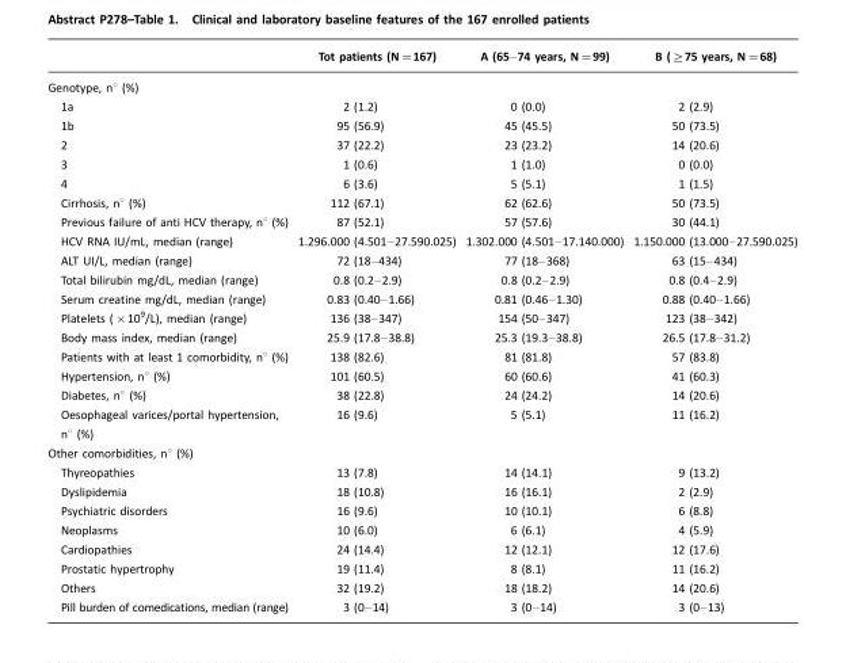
<table><thead><tr><td></td><td>Tot patients (N=167)</td><td>A (65–74 years, N=99)</td><td>B (≥75 years, N=68)</td></tr></thead><tbody><tr><td colspan="4">Genotype, n° (%)</td></tr><tr><td>1a</td><td>2 (1.2)</td><td>0 (0.0)</td><td>2 (2.9)</td></tr><tr><td>1b</td><td>95 (56.9)</td><td>45 (45.5)</td><td>50 (73.5)</td></tr><tr><td>2</td><td>37 (22.2)</td><td>23 (23.2)</td><td>14 (20.6)</td></tr><tr><td>3</td><td>1 (0.6)</td><td>1 (1.0)</td><td>0 (0.0)</td></tr><tr><td>4</td><td>6 (3.6)</td><td>5 (5.1)</td><td>1 (1.5)</td></tr><tr><td>Cirrhosis, n° (%)</td><td>112 (67.1)</td><td>62 (62.6)</td><td>50 (73.5)</td></tr><tr><td>Previous failure of anti HCV therapy, n° (%)</td><td>87 (52.1)</td><td>57 (57.6)</td><td>30 (44.1)</td></tr><tr><td>HCV RNA IU/mL, median (range)</td><td>1.296.000 (4.501–27.590.025)</td><td>1.302.000 (4.501–17.140.000)</td><td>1.150.000 (13.000–27.590.025)</td></tr><tr><td>ALT UI/L, median (range)</td><td>72 (18–434)</td><td>77 (18–368)</td><td>63 (15–434)</td></tr><tr><td>Total bilirubin mg/dL, median (range)</td><td>0.8 (0.2–2.9)</td><td>0.8 (0.2–2.9)</td><td>0.8 (0.4–2.9)</td></tr><tr><td>Serum creatine mg/dL, median (range)</td><td>0.83 (0.40–1.66)</td><td>0.81 (0.46–1.30)</td><td>0.88 (0.40–1.66)</td></tr><tr><td>Platelets (×109/L), median (range)</td><td>136 (38–347)</td><td>154 (50–347)</td><td>123 (38–342)</td></tr><tr><td>Body mass index, median (range)</td><td>25.9 (17.8–38.8)</td><td>25.3 (19.3–38.8)</td><td>26.5 (17.8–31.2)</td></tr><tr><td>Patients with at least 1 comorbidity, n° (%)</td><td>138 (82.6)</td><td>81 (81.8)</td><td>57 (83.8)</td></tr><tr><td>Hypertension, n° (%)</td><td>101 (60.5)</td><td>60 (60.6)</td><td>41 (60.3)</td></tr><tr><td>Diabetes, n° (%)</td><td>38 (22.8)</td><td>24 (24.2)</td><td>14 (20.6)</td></tr><tr><td>Oesophageal varices/portal hypertension, n° (%)</td><td>16 (9.6)</td><td>5 (5.1)</td><td>11 (16.2)</td></tr><tr><td colspan="4">Other comorbidities, n° (%)</td></tr><tr><td>Thyreopathies</td><td>13 (7.8)</td><td>14 (14.1)</td><td>9 (13.2)</td></tr><tr><td>Dyslipidemia</td><td>18 (10.8)</td><td>16 (16.1)</td><td>2 (2.9)</td></tr><tr><td>Psychiatric disorders</td><td>16 (9.6)</td><td>10 (10.1)</td><td>6 (8.8)</td></tr><tr><td>Neoplasms</td><td>10 (6.0)</td><td>6 (6.1)</td><td>4 (5.9)</td></tr><tr><td>Cardiopathies</td><td>24 (14.4)</td><td>12 (12.1)</td><td>12 (17.6)</td></tr><tr><td>Prostatic hypertrophy</td><td>19 (11.4)</td><td>8 (8.1)</td><td>11 (16.2)</td></tr><tr><td>Others</td><td>32 (19.2)</td><td>18 (18.2)</td><td>14 (20.6)</td></tr><tr><td>Pill burden of comedications, median (range)</td><td>3 (0–14)</td><td>3 (0–14)</td><td>3 (0–13)</td></tr></tbody></table>